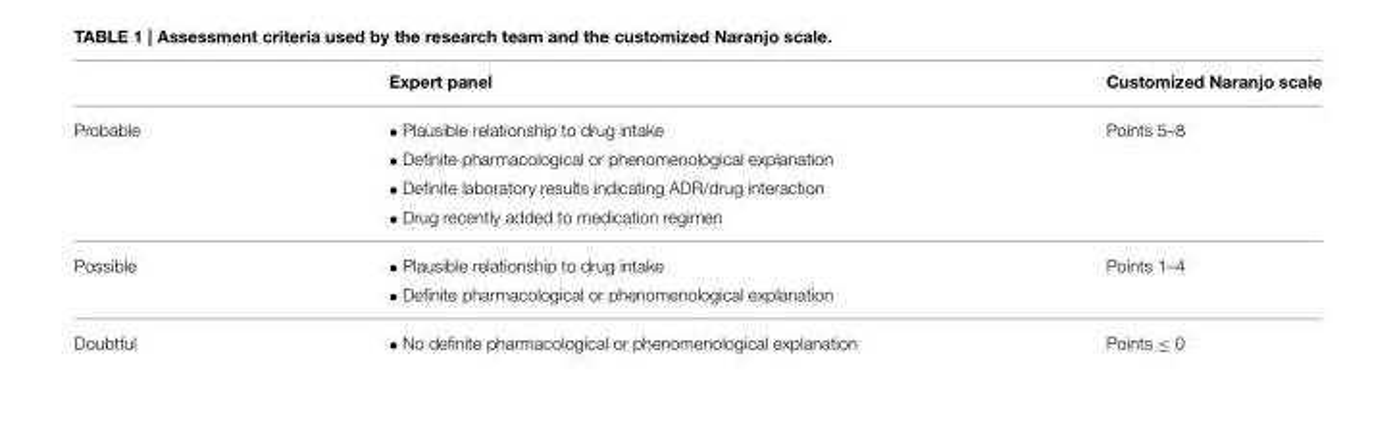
<table><thead><tr><td></td><td>Expert panel</td><td>Customized Naranjo scale</td></tr></thead><tbody><tr><td rowspan="4">Probable</td><td>• Plausible relationship to drug intake</td><td>Points 5–8</td></tr><tr><td>• Definite pharmacological or phenomenological explanation</td><td></td></tr><tr><td>• Definite laboratory results indicating ADR/drug interaction</td><td></td></tr><tr><td>• Drug recently added to medication regimen</td><td></td></tr><tr><td rowspan="2">Possible</td><td>• Plausible relationship to drug intake</td><td>Points 1–4</td></tr><tr><td>• Definite pharmacological or phenomenological explanation</td><td></td></tr><tr><td>Doubtful</td><td>• No definite pharmacological or phenomenological explanation</td><td>Points ≤ 0</td></tr></tbody></table>